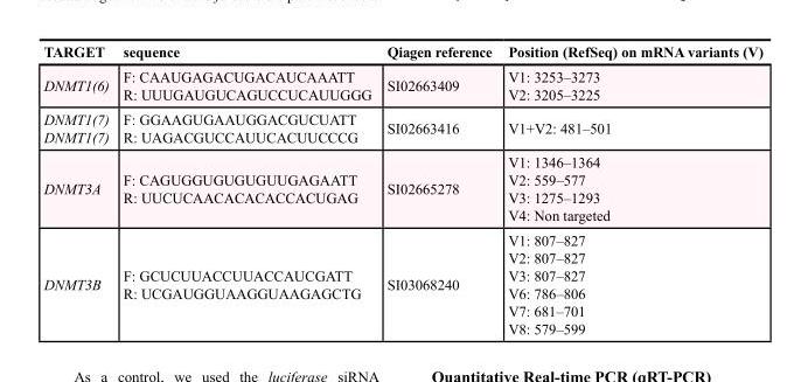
<table><thead><tr><td>TARGET</td><td>sequence</td><td>Qiagen reference</td><td>Position (RefSeq) on mRNA variants (V)</td></tr></thead><tbody><tr><td>DNMT1(6)</td><td>F: CAAUGAGACUGACAUCAAATT R: UUUGAUGUCAGUCCUCAUUGGG</td><td>SI02663409</td><td>V1: 3253–3273 V2: 3205–3225</td></tr><tr><td>DNMT1(7) DNMT1(7)</td><td>F: GGAAGUGAAUGGACGUCUATT R: UAGACGUCCAUUCACUUCCCG</td><td>SI02663416</td><td>V1+V2: 481–501</td></tr><tr><td>DNMT3A</td><td>F: CAGUGGUGUGUGUUGAGAATT R: UUCUCAACACACACCACUGAG</td><td>SI02665278</td><td>V1: 1346–1364 V2: 559–577 V3: 1275–1293 V4: Non targeted</td></tr><tr><td>DNMT3B</td><td>F: GCUCUUACCUUACCAUCGATT R: UCGAUGGUAAGGUAAGAGCTG</td><td>SI03068240</td><td>V1: 807–827 V2: 807–827 V3: 807–827 V6: 786–806 V7: 681–701 V8: 579–599</td></tr></tbody></table>